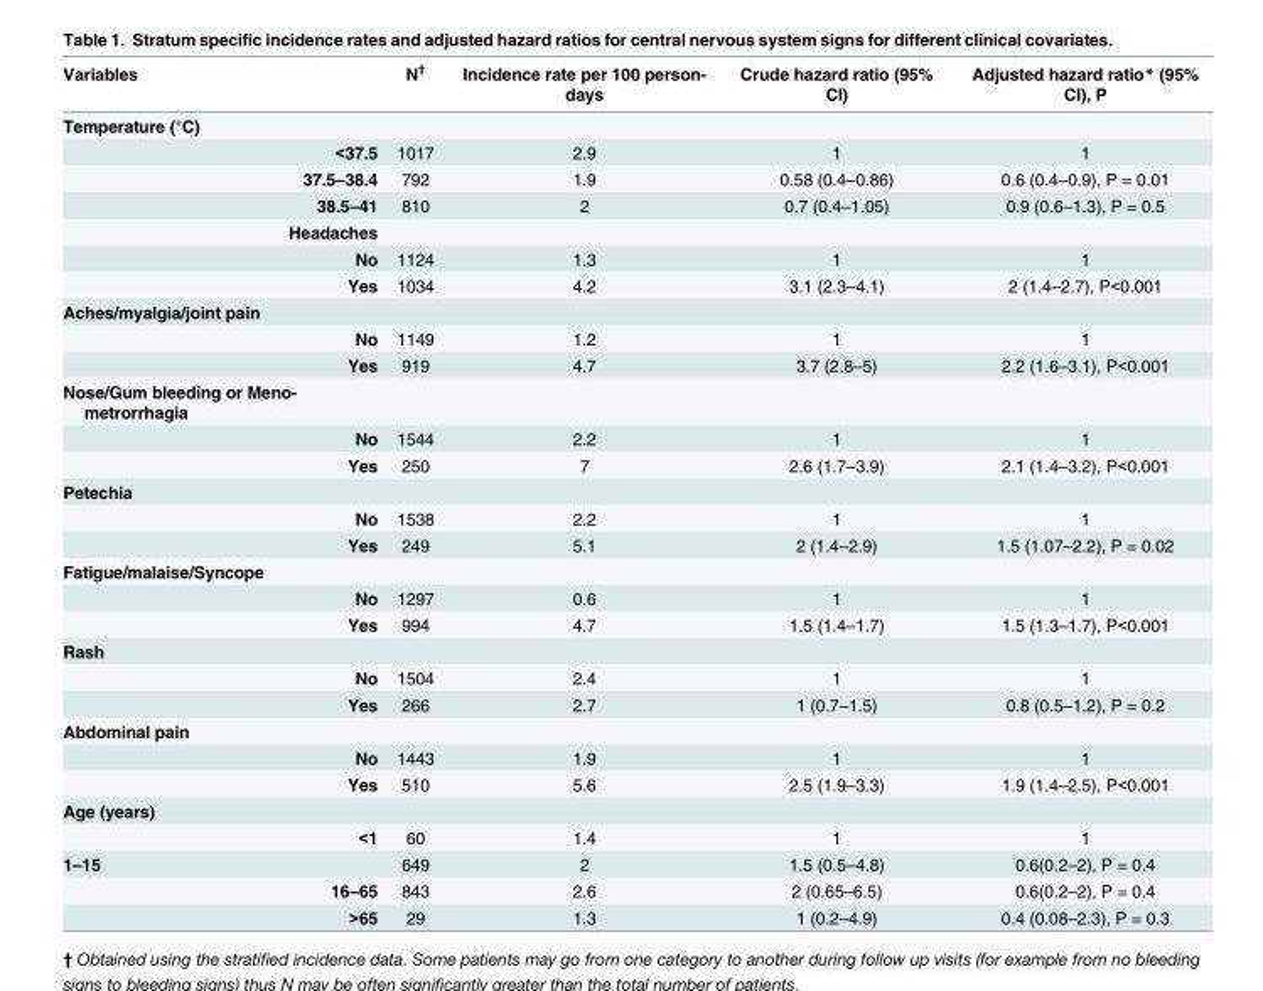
<table><thead><tr><td>Variables</td><td>N<sup>†</sup></td><td>Incidence rate per 100 person- days</td><td>Crude hazard ratio (95% CI)</td><td>Adjusted hazard ratio* (95% CI), P</td></tr></thead><tbody><tr><td colspan="5">Temperature (°C)</td></tr><tr><td>&lt;37.5</td><td>1017</td><td>2.9</td><td>1</td><td>1</td></tr><tr><td>37.5–38.4</td><td>792</td><td>1.9</td><td>0.58 (0.4–0.86)</td><td>0.6 (0.4–0.9), P = 0.01</td></tr><tr><td>38.5–41</td><td>810</td><td>2</td><td>0.7 (0.4–1.05)</td><td>0.9 (0.6–1.3), P = 0.5</td></tr><tr><td colspan="5">Headaches</td></tr><tr><td>No</td><td>1124</td><td>1.3</td><td>1</td><td>1</td></tr><tr><td>Yes</td><td>1034</td><td>4.2</td><td>3.1 (2.3–4.1)</td><td>2 (1.4–2.7), P&lt;0.001</td></tr><tr><td colspan="5">Aches/myalgia/joint pain</td></tr><tr><td>No</td><td>1149</td><td>1.2</td><td>1</td><td>1</td></tr><tr><td>Yes</td><td>919</td><td>4.7</td><td>3.7 (2.8–5)</td><td>2.2 (1.6–3.1), P&lt;0.001</td></tr><tr><td colspan="5">Nose/Gum bleeding or Meno- metrorrhagia</td></tr><tr><td>No</td><td>1544</td><td>2.2</td><td>1</td><td>1</td></tr><tr><td>Yes</td><td>250</td><td>7</td><td>2.6 (1.7–3.9)</td><td>2.1 (1.4–3.2), P&lt;0.001</td></tr><tr><td colspan="5">Petechia</td></tr><tr><td>No</td><td>1538</td><td>2.2</td><td>1</td><td>1</td></tr><tr><td>Yes</td><td>249</td><td>5.1</td><td>2 (1.4–2.9)</td><td>1.5 (1.07–2.2), P = 0.02</td></tr><tr><td colspan="5">Fatigue/malaise/Syncope</td></tr><tr><td>No</td><td>1297</td><td>0.6</td><td>1</td><td>1</td></tr><tr><td>Yes</td><td>994</td><td>4.7</td><td>1.5 (1.4–1.7)</td><td>1.5 (1.3–1.7), P&lt;0.001</td></tr><tr><td colspan="5">Rash</td></tr><tr><td>No</td><td>1504</td><td>2.4</td><td>1</td><td>1</td></tr><tr><td>Yes</td><td>266</td><td>2.7</td><td>1 (0.7–1.5)</td><td>0.8 (0.5–1.2), P = 0.2</td></tr><tr><td colspan="5">Abdominal pain</td></tr><tr><td>No</td><td>1443</td><td>1.9</td><td>1</td><td>1</td></tr><tr><td>Yes</td><td>510</td><td>5.6</td><td>2.5 (1.9–3.3)</td><td>1.9 (1.4–2.5), P&lt;0.001</td></tr><tr><td colspan="5">Age (years)</td></tr><tr><td>&lt;1</td><td>60</td><td>1.4</td><td>1</td><td>1</td></tr><tr><td>1–15</td><td>649</td><td>2</td><td>1.5 (0.5–4.8)</td><td>0.6(0.2–2), P = 0.4</td></tr><tr><td>16–65</td><td>843</td><td>2.6</td><td>2 (0.65–6.5)</td><td>0.6(0.2–2), P = 0.4</td></tr><tr><td>&gt;65</td><td>29</td><td>1.3</td><td>1 (0.2–4.9)</td><td>0.4 (0.08–2.3), P = 0.3</td></tr></tbody></table>